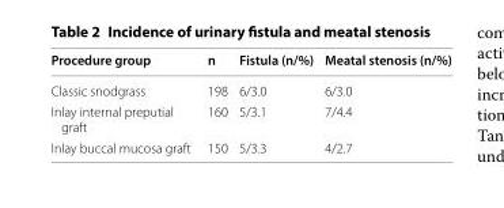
<table><thead><tr><td>Procedure group</td><td>n</td><td>Fistula (n/%)</td><td>Meatal stenosis (n/%)</td></tr></thead><tbody><tr><td>Classic snodgrass</td><td>198</td><td>6/3.0</td><td>6/3.0</td></tr><tr><td>Inlay internal preputial graft</td><td>160</td><td>5/3.1</td><td>7/4.4</td></tr><tr><td>Inlay buccal mucosa graft</td><td>150</td><td>5/3.3</td><td>4/2.7</td></tr></tbody></table>